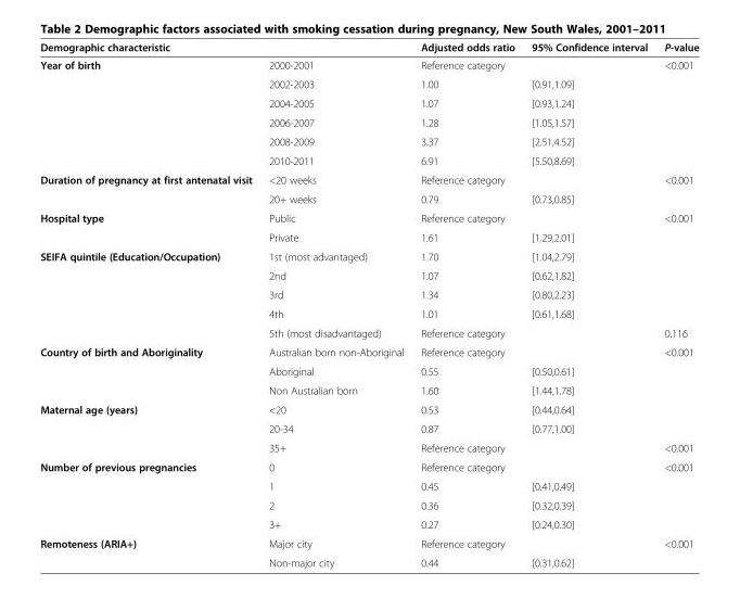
<table><thead><tr><td colspan="2">Demographic characteristic</td><td rowspan="2">Adjusted odds ratio Reference category</td><td rowspan="2">95% Confidence interval</td><td rowspan="2">P-value &lt;0.001</td></tr><tr><td>Year of birth</td><td>2000-2001</td></tr></thead><tbody><tr><td></td><td>2002-2003</td><td>1.00</td><td>[0.91,1.09]</td><td></td></tr><tr><td></td><td>2004-2005</td><td>1.07</td><td>[0.93,1.24]</td><td></td></tr><tr><td></td><td>2006-2007</td><td>1.28</td><td>[1.05,1.57]</td><td></td></tr><tr><td></td><td>2008-2009</td><td>3.37</td><td>[2.51,4.52]</td><td></td></tr><tr><td></td><td>2010-2011</td><td>6.91</td><td>[5.50,8.69]</td><td></td></tr><tr><td rowspan="2">Duration of pregnancy at first antenatal visit</td><td>&lt;20 weeks</td><td>Reference category</td><td></td><td>&lt;0.001</td></tr><tr><td>20+ weeks</td><td>0.79</td><td>[0.73,0.85]</td><td></td></tr><tr><td rowspan="2">Hospital type</td><td>Public</td><td>Reference category</td><td></td><td>&lt;0.001</td></tr><tr><td>Private</td><td>1.61</td><td>[1.29,2.01]</td><td></td></tr><tr><td rowspan="5">SEIFA quintile (Education/Occupation)</td><td>1st (most advantaged)</td><td>1.70</td><td>[1.04,2.79]</td><td></td></tr><tr><td>2nd</td><td>1.07</td><td>[0.62,1.82]</td><td></td></tr><tr><td>3rd</td><td>1.34</td><td>[0.80,2.23]</td><td></td></tr><tr><td>4th</td><td>1.01</td><td>[0.61,1.68]</td><td></td></tr><tr><td>5th (most disadvantaged)</td><td>Reference category</td><td></td><td>0.116</td></tr><tr><td rowspan="3">Country of birth and Aboriginality</td><td>Australian born non-Aboriginal</td><td>Reference category</td><td></td><td>&lt;0.001</td></tr><tr><td>Aboriginal</td><td>0.55</td><td>[0.50,0.61]</td><td></td></tr><tr><td>Non Australian born</td><td>1.60</td><td>[1.44,1.78]</td><td></td></tr><tr><td rowspan="3">Maternal age (years)</td><td>&lt;20</td><td>0.53</td><td>[0.44,0.64]</td><td></td></tr><tr><td>20-34</td><td>0.87</td><td>[0.77,1.00]</td><td></td></tr><tr><td>35+</td><td>Reference category</td><td></td><td>&lt;0.001</td></tr><tr><td rowspan="4">Number of previous pregnancies</td><td>0</td><td>Reference category</td><td></td><td>&lt;0.001</td></tr><tr><td>1</td><td>0.45</td><td>[0.41,0.49]</td><td></td></tr><tr><td>2</td><td>0.36</td><td>[0.32,0.39]</td><td></td></tr><tr><td>3+</td><td>0.27</td><td>[0.24,0.30]</td><td></td></tr><tr><td rowspan="2">Remoteness (ARIA+)</td><td>Major city</td><td>Reference category</td><td></td><td>&lt;0.001</td></tr><tr><td>Non-major city</td><td>0.44</td><td>[0.31,0.62]</td><td></td></tr></tbody></table>